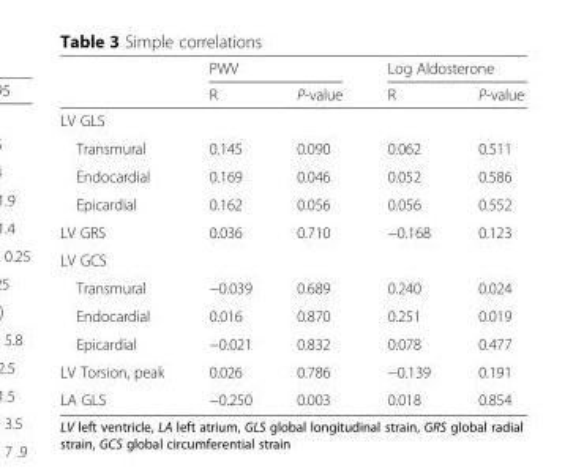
<table><thead><tr><td rowspan="2"></td><td colspan="2">PWV</td><td colspan="2">Log Aldosterone</td></tr><tr><td>R</td><td>P-value</td><td>R</td><td>P-value</td></tr></thead><tbody><tr><td colspan="5">LV GLS</td></tr><tr><td>Transmural</td><td>0.145</td><td>0.090</td><td>0.062</td><td>0.511</td></tr><tr><td>Endocardial</td><td>0.169</td><td>0.046</td><td>0.052</td><td>0.586</td></tr><tr><td>Epicardial</td><td>0.162</td><td>0.056</td><td>0.056</td><td>0.552</td></tr><tr><td>LV GRS</td><td>0.036</td><td>0.710</td><td>−0.168</td><td>0.123</td></tr><tr><td colspan="5">LV GCS</td></tr><tr><td>Transmural</td><td>−0.039</td><td>0.689</td><td>0.240</td><td>0.024</td></tr><tr><td>Endocardial</td><td>0.016</td><td>0.870</td><td>0.251</td><td>0.019</td></tr><tr><td>Epicardial</td><td>−0.021</td><td>0.832</td><td>0.078</td><td>0.477</td></tr><tr><td>LV Torsion, peak</td><td>0.026</td><td>0.786</td><td>−0.139</td><td>0.191</td></tr><tr><td>LA GLS</td><td>−0.250</td><td>0.003</td><td>0.018</td><td>0.854</td></tr></tbody></table>